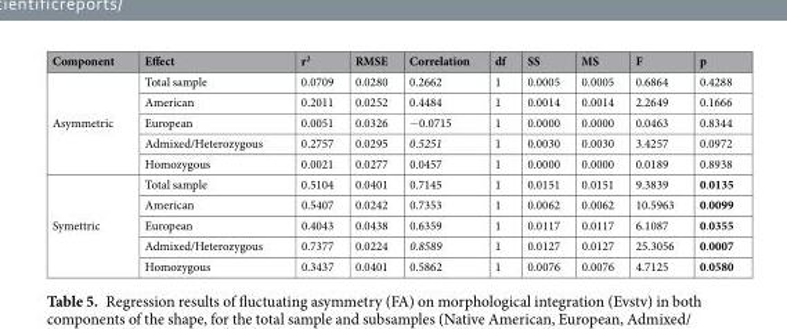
<table><thead><tr><td>Component</td><td>Effect</td><td>r<sup>2</sup></td><td>RMSE</td><td>Correlation</td><td>df</td><td>SS</td><td>MS</td><td>F</td><td>p</td></tr></thead><tbody><tr><td rowspan="5">Asymmetric</td><td>Total sample</td><td>0.0709</td><td>0.0280</td><td>0.2662</td><td>1</td><td>0.0005</td><td>0.0005</td><td>0.6864</td><td>0.4288</td></tr><tr><td>American</td><td>0.2011</td><td>0.0252</td><td>0.4484</td><td>1</td><td>0.0014</td><td>0.0014</td><td>2.2649</td><td>0.1666</td></tr><tr><td>European</td><td>0.0051</td><td>0.0326</td><td>−0.0715</td><td>1</td><td>0.0000</td><td>0.0000</td><td>0.0463</td><td>0.8344</td></tr><tr><td>Admixed/Heterozygous</td><td>0.2757</td><td>0.0295</td><td>0.5251</td><td>1</td><td>0.0030</td><td>0.0030</td><td>3.4257</td><td>0.0972</td></tr><tr><td>Homozygous</td><td>0.0021</td><td>0.0277</td><td>0.0457</td><td>1</td><td>0.0000</td><td>0.0000</td><td>0.0189</td><td>0.8938</td></tr><tr><td rowspan="5">Symettric</td><td>Total sample</td><td>0.5104</td><td>0.0401</td><td>0.7145</td><td>1</td><td>0.0151</td><td>0.0151</td><td>9.3839</td><td>0.0135</td></tr><tr><td>American</td><td>0.5407</td><td>0.0242</td><td>0.7353</td><td>1</td><td>0.0062</td><td>0.0062</td><td>10.5963</td><td>0.0099</td></tr><tr><td>European</td><td>0.4043</td><td>0.0438</td><td>0.6359</td><td>1</td><td>0.0117</td><td>0.0117</td><td>6.1087</td><td>0.0355</td></tr><tr><td>Admixed/Heterozygous</td><td>0.7377</td><td>0.0224</td><td>0.8589</td><td>1</td><td>0.0127</td><td>0.0127</td><td>25.3056</td><td>0.0007</td></tr><tr><td>Homozygous</td><td>0.3437</td><td>0.0401</td><td>0.5862</td><td>1</td><td>0.0076</td><td>0.0076</td><td>4.7125</td><td>0.0580</td></tr></tbody></table>